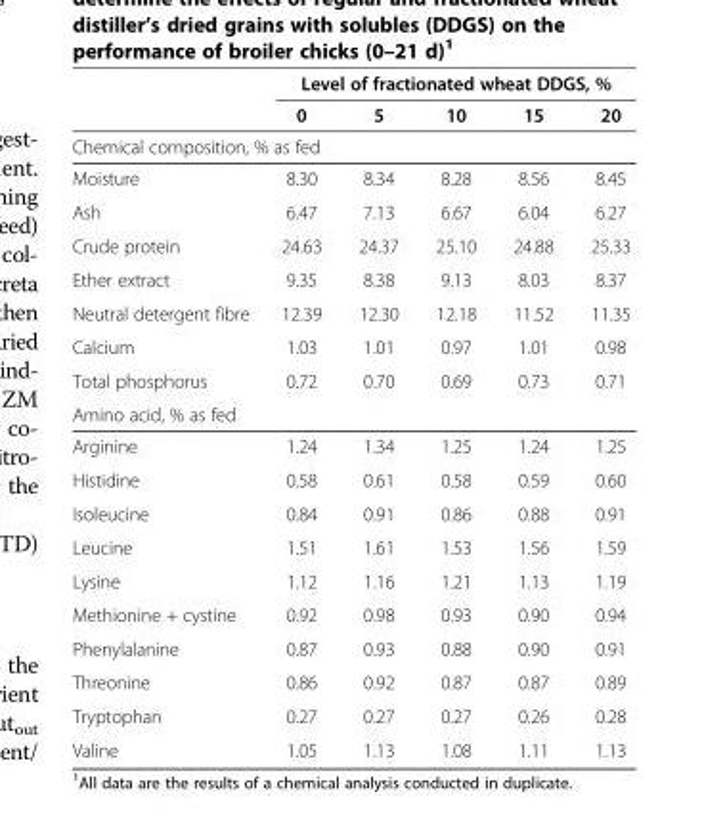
<table><thead><tr><td rowspan="2"></td><td colspan="5">Level of fractionated wheat DDGS, %</td></tr><tr><td>0</td><td>5</td><td>10</td><td>15</td><td>20</td></tr></thead><tbody><tr><td colspan="6">Chemical composition, % as fed</td></tr><tr><td>Moisture</td><td>8.30</td><td>8.34</td><td>8.28</td><td>8.56</td><td>8.45</td></tr><tr><td>Ash</td><td>6.47</td><td>7.13</td><td>6.67</td><td>6.04</td><td>6.27</td></tr><tr><td>Crude protein</td><td>24.63</td><td>24.37</td><td>25.10</td><td>24.88</td><td>25.33</td></tr><tr><td>Ether extract</td><td>9.35</td><td>8.38</td><td>9.13</td><td>8.03</td><td>8.37</td></tr><tr><td>Neutral detergent fibre</td><td>12.39</td><td>12.30</td><td>12.18</td><td>11.52</td><td>11.35</td></tr><tr><td>Calcium</td><td>1.03</td><td>1.01</td><td>0.97</td><td>1.01</td><td>0.98</td></tr><tr><td>Total phosphorus</td><td>0.72</td><td>0.70</td><td>0.69</td><td>0.73</td><td>0.71</td></tr><tr><td colspan="6">Amino acid, % as fed</td></tr><tr><td>Arginine</td><td>1.24</td><td>1.34</td><td>1.25</td><td>1.24</td><td>1.25</td></tr><tr><td>Histidine</td><td>0.58</td><td>0.61</td><td>0.58</td><td>0.59</td><td>0.60</td></tr><tr><td>Isoleucine</td><td>0.84</td><td>0.91</td><td>0.86</td><td>0.88</td><td>0.91</td></tr><tr><td>Leucine</td><td>1.51</td><td>1.61</td><td>1.53</td><td>1.56</td><td>1.59</td></tr><tr><td>Lysine</td><td>1.12</td><td>1.16</td><td>1.21</td><td>1.13</td><td>1.19</td></tr><tr><td>Methionine + cystine</td><td>0.92</td><td>0.98</td><td>0.93</td><td>0.90</td><td>0.94</td></tr><tr><td>Phenylalanine</td><td>0.87</td><td>0.93</td><td>0.88</td><td>0.90</td><td>0.91</td></tr><tr><td>Threonine</td><td>0.86</td><td>0.92</td><td>0.87</td><td>0.87</td><td>0.89</td></tr><tr><td>Tryptophan</td><td>0.27</td><td>0.27</td><td>0.27</td><td>0.26</td><td>0.28</td></tr><tr><td>Valine</td><td>1.05</td><td>1.13</td><td>1.08</td><td>1.11</td><td>1.13</td></tr></tbody></table>